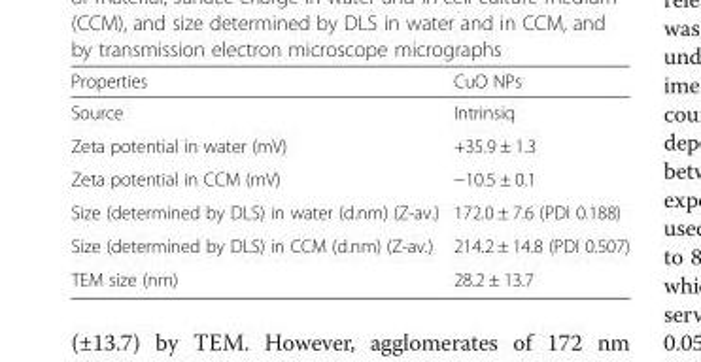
<table><thead><tr><td>Properties</td><td>CuO NPs</td></tr></thead><tbody><tr><td>Source</td><td>Intrinsiq</td></tr><tr><td>Zeta potential in water (mV)</td><td>+35.9 ± 1.3</td></tr><tr><td>Zeta potential in CCM (mV)</td><td>−10.5 ± 0.1</td></tr><tr><td>Size (determined by DLS) in water (d.nm) (Z-av.)</td><td>172.0 ± 7.6 (PDI 0.188)</td></tr><tr><td>Size (determined by DLS) in CCM (d.nm) (Z-av.)</td><td>214.2 ± 14.8 (PDI 0.507)</td></tr><tr><td>TEM size (nm)</td><td>28.2 ± 13.7</td></tr></tbody></table>